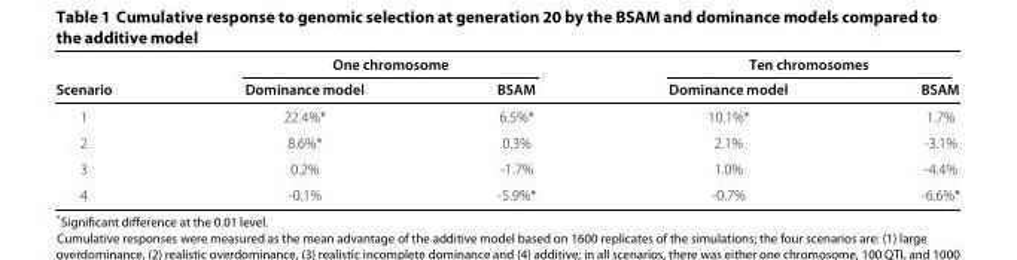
<table><thead><tr><td rowspan="2">Scenario</td><td colspan="2">One chromosome</td><td colspan="2">Ten chromosomes</td></tr><tr><td>Dominance model</td><td>BSAM</td><td>Dominance model</td><td>BSAM</td></tr></thead><tbody><tr><td>1</td><td>22.4%*</td><td>6.5%*</td><td>10.1%*</td><td>1.7%</td></tr><tr><td>2</td><td>8.6%*</td><td>0.3%</td><td>2.1%</td><td>-3.1%</td></tr><tr><td>3</td><td>0.2%</td><td>-1.7%</td><td>1.0%</td><td>-4.4%</td></tr><tr><td>4</td><td>-0.1%</td><td>-5.9%*</td><td>-0.7%</td><td>-6.6%*</td></tr></tbody></table>